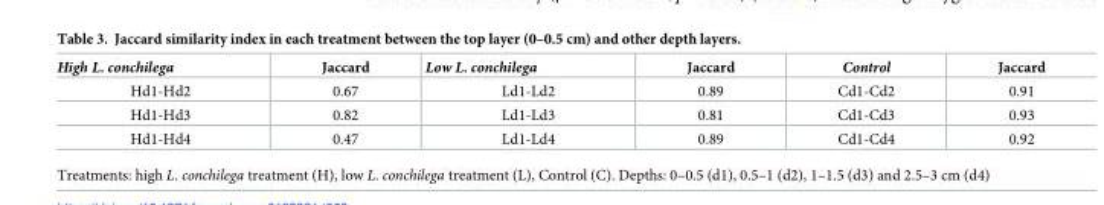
<table><thead><tr><td>High L. conchilega</td><td>Jaccard</td><td>Low L. conchilega</td><td>Jaccard</td><td>Control</td><td>Jaccard</td></tr></thead><tbody><tr><td>Hd1-Hd2</td><td>0.67</td><td>Ld1-Ld2</td><td>0.89</td><td>Cd1-Cd2</td><td>0.91</td></tr><tr><td>Hd1-Hd3</td><td>0.82</td><td>Ld1-Ld3</td><td>0.81</td><td>Cd1-Cd3</td><td>0.93</td></tr><tr><td>Hd1-Hd4</td><td>0.47</td><td>Ld1-Ld4</td><td>0.89</td><td>Cd1-Cd4</td><td>0.92</td></tr></tbody></table>